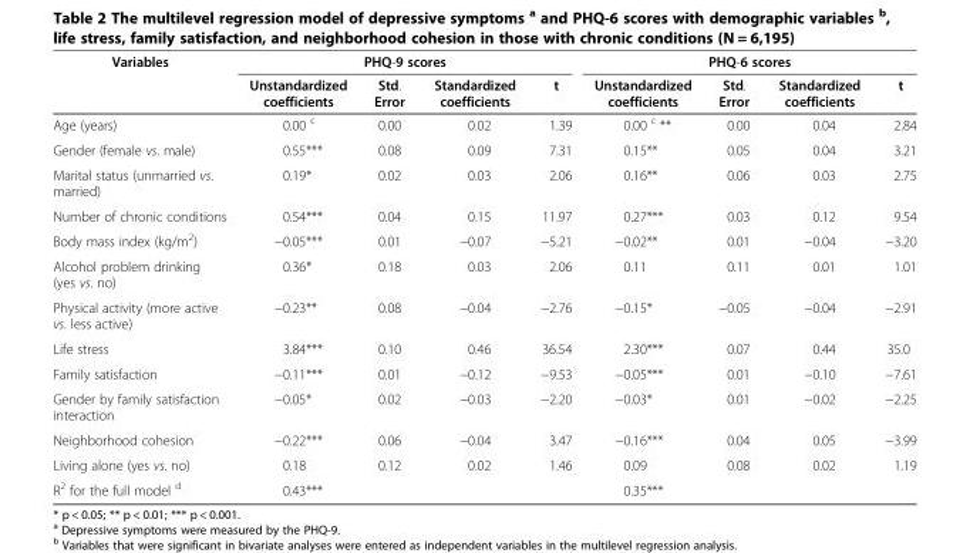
<table><thead><tr><td rowspan="2">Variables</td><td colspan="4">PHQ-9 scores</td><td colspan="4">PHQ-6 scores</td></tr><tr><td>Unstandardized coefficients</td><td>Std. Error</td><td>Standardized coefficients</td><td>t</td><td>Unstandardized coefficients</td><td>Std. Error</td><td>Standardized coefficients</td><td>t</td></tr></thead><tbody><tr><td>Age (years)</td><td>0.00 <sup>c</sup></td><td>0.00</td><td>0.02</td><td>1.39</td><td>0.00 <sup>c</sup> **</td><td>0.00</td><td>0.04</td><td>2.84</td></tr><tr><td>Gender (female vs. male)</td><td>0.55***</td><td>0.08</td><td>0.09</td><td>7.31</td><td>0.15**</td><td>0.05</td><td>0.04</td><td>3.21</td></tr><tr><td>Marital status (unmarried vs. married)</td><td>0.19*</td><td>0.02</td><td>0.03</td><td>2.06</td><td>0.16**</td><td>0.06</td><td>0.03</td><td>2.75</td></tr><tr><td>Number of chronic conditions</td><td>0.54***</td><td>0.04</td><td>0.15</td><td>11.97</td><td>0.27***</td><td>0.03</td><td>0.12</td><td>9.54</td></tr><tr><td>Body mass index (kg/m<sup>2</sup>)</td><td>−0.05***</td><td>0.01</td><td>−0.07</td><td>−5.21</td><td>−0.02**</td><td>0.01</td><td>−0.04</td><td>−3.20</td></tr><tr><td>Alcohol problem drinking (yes vs. no)</td><td>0.36*</td><td>0.18</td><td>0.03</td><td>2.06</td><td>0.11</td><td>0.11</td><td>0.01</td><td>1.01</td></tr><tr><td>Physical activity (more active vs. less active)</td><td>−0.23**</td><td>0.08</td><td>−0.04</td><td>−2.76</td><td>−0.15*</td><td>−0.05</td><td>−0.04</td><td>−2.91</td></tr><tr><td>Life stress</td><td>3.84***</td><td>0.10</td><td>0.46</td><td>36.54</td><td>2.30***</td><td>0.07</td><td>0.44</td><td>35.0</td></tr><tr><td>Family satisfaction</td><td>−0.11***</td><td>0.01</td><td>−0.12</td><td>−9.53</td><td>−0.05***</td><td>0.01</td><td>−0.10</td><td>−7.61</td></tr><tr><td>Gender by family satisfaction interaction</td><td>−0.05*</td><td>0.02</td><td>−0.03</td><td>−2.20</td><td>−0.03*</td><td>0.01</td><td>−0.02</td><td>−2.25</td></tr><tr><td>Neighborhood cohesion</td><td>−0.22***</td><td>0.06</td><td>−0.04</td><td>3.47</td><td>−0.16***</td><td>0.04</td><td>0.05</td><td>−3.99</td></tr><tr><td>Living alone (yes vs. no)</td><td>0.18</td><td>0.12</td><td>0.02</td><td>1.46</td><td>0.09</td><td>0.08</td><td>0.02</td><td>1.19</td></tr><tr><td>R<sup>2</sup> for the full model <sup>d</sup></td><td>0.43***</td><td></td><td></td><td></td><td>0.35***</td><td></td><td></td><td></td></tr></tbody></table>